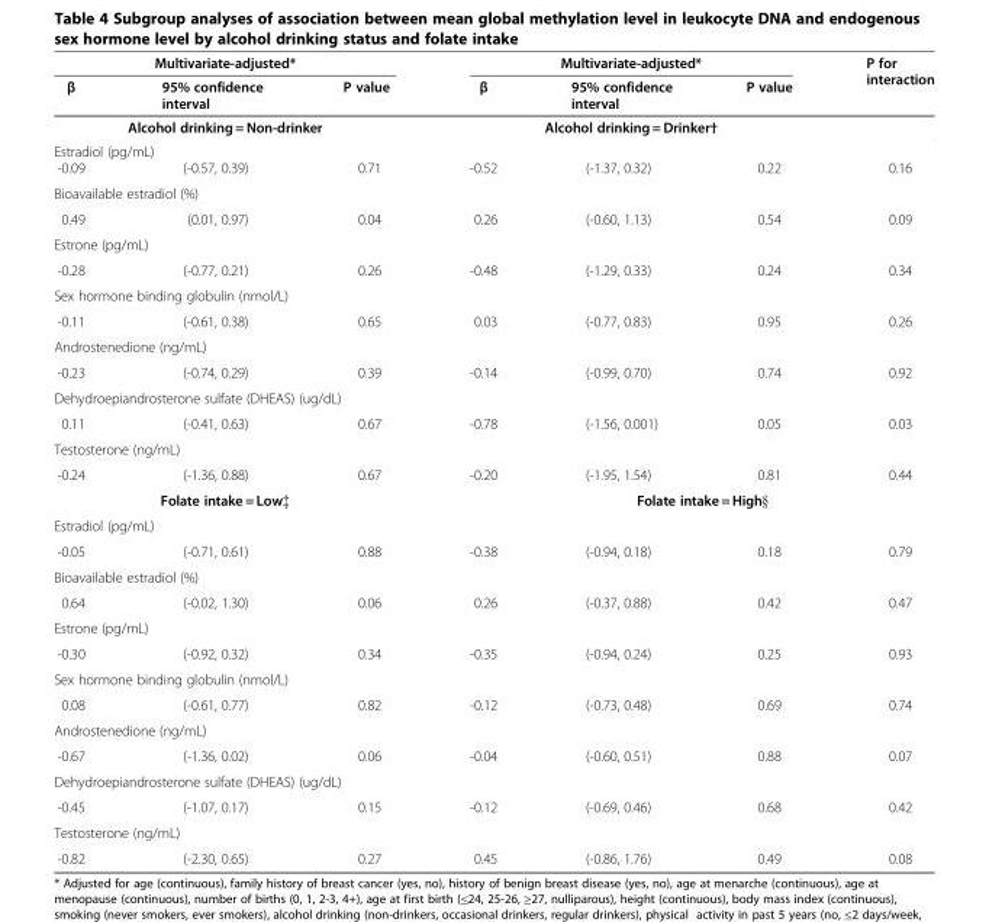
<table><thead><tr><td colspan="3">Multivariate-adjusted*</td><td colspan="3">Multivariate-adjusted*</td><td rowspan="3">P for interaction</td></tr><tr><td>β</td><td>95% confidence interval</td><td>P value</td><td>β</td><td>95% confidence interval</td><td>P value</td></tr><tr><td colspan="3">Alcohol drinking = Non-drinker</td><td colspan="3">Alcohol drinking = Drinker†</td></tr></thead><tbody><tr><td colspan="7">Estradiol (pg/mL)</td></tr><tr><td>-0.09</td><td>(-0.57, 0.39)</td><td>0.71</td><td>-0.52</td><td>(-1.37, 0.32)</td><td>0.22</td><td>0.16</td></tr><tr><td colspan="7">Bioavailable estradiol (%)</td></tr><tr><td>0.49</td><td>(0.01, 0.97)</td><td>0.04</td><td>0.26</td><td>(-0.60, 1.13)</td><td>0.54</td><td>0.09</td></tr><tr><td colspan="7">Estrone (pg/mL)</td></tr><tr><td>-0.28</td><td>(-0.77, 0.21)</td><td>0.26</td><td>-0.48</td><td>(-1.29, 0.33)</td><td>0.24</td><td>0.34</td></tr><tr><td colspan="7">Sex hormone binding globulin (nmol/L)</td></tr><tr><td>-0.11</td><td>(-0.61, 0.38)</td><td>0.65</td><td>0.03</td><td>(-0.77, 0.83)</td><td>0.95</td><td>0.26</td></tr><tr><td colspan="7">Androstenedione (ng/mL)</td></tr><tr><td>-0.23</td><td>(-0.74, 0.29)</td><td>0.39</td><td>-0.14</td><td>(-0.99, 0.70)</td><td>0.74</td><td>0.92</td></tr><tr><td colspan="7">Dehydroepiandrosterone sulfate (DHEAS) (ug/dL)</td></tr><tr><td>0.11</td><td>(-0.41, 0.63)</td><td>0.67</td><td>-0.78</td><td>(-1.56, 0.001)</td><td>0.05</td><td>0.03</td></tr><tr><td colspan="7">Testosterone (ng/mL)</td></tr><tr><td>-0.24</td><td>(-1.36, 0.88)</td><td>0.67</td><td>-0.20</td><td>(-1.95, 1.54)</td><td>0.81</td><td>0.44</td></tr><tr><td colspan="3">Folate intake = Low‡</td><td colspan="4">Folate intake = High§</td></tr><tr><td colspan="7">Estradiol (pg/mL)</td></tr><tr><td>-0.05</td><td>(-0.71, 0.61)</td><td>0.88</td><td>-0.38</td><td>(-0.94, 0.18)</td><td>0.18</td><td>0.79</td></tr><tr><td colspan="7">Bioavailable estradiol (%)</td></tr><tr><td>0.64</td><td>(-0.02, 1.30)</td><td>0.06</td><td>0.26</td><td>(-0.37, 0.88)</td><td>0.42</td><td>0.47</td></tr><tr><td colspan="7">Estrone (pg/mL)</td></tr><tr><td>-0.30</td><td>(-0.92, 0.32)</td><td>0.34</td><td>-0.35</td><td>(-0.94, 0.24)</td><td>0.25</td><td>0.93</td></tr><tr><td colspan="7">Sex hormone binding globulin (nmol/L)</td></tr><tr><td>0.08</td><td>(-0.61, 0.77)</td><td>0.82</td><td>-0.12</td><td>(-0.73, 0.48)</td><td>0.69</td><td>0.74</td></tr><tr><td colspan="7">Androstenedione (ng/mL)</td></tr><tr><td>-0.67</td><td>(-1.36, 0.02)</td><td>0.06</td><td>-0.04</td><td>(-0.60, 0.51)</td><td>0.88</td><td>0.07</td></tr><tr><td colspan="7">Dehydroepiandrosterone sulfate (DHEAS) (ug/dL)</td></tr><tr><td>-0.45</td><td>(-1.07, 0.17)</td><td>0.15</td><td>-0.12</td><td>(-0.69, 0.46)</td><td>0.68</td><td>0.42</td></tr><tr><td colspan="7">Testosterone (ng/mL)</td></tr><tr><td>-0.82</td><td>(-2.30, 0.65)</td><td>0.27</td><td>0.45</td><td>(-0.86, 1.76)</td><td>0.49</td><td>0.08</td></tr></tbody></table>